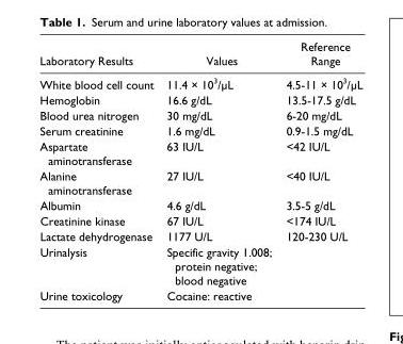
<table><thead><tr><td>Laboratory Results</td><td>Values</td><td>Reference Range</td></tr></thead><tbody><tr><td>White blood cell count</td><td>11.4 × 10<sup>3</sup>/µL</td><td>4.5-11 × 10<sup>3</sup>/µL</td></tr><tr><td>Hemoglobin</td><td>16.6 g/dL</td><td>13.5-17.5 g/dL</td></tr><tr><td>Blood urea nitrogen</td><td>30 mg/dL</td><td>6-20 mg/dL</td></tr><tr><td>Serum creatinine</td><td>1.6 mg/dL</td><td>0.9-1.5 mg/dL</td></tr><tr><td>Aspartate aminotransferase</td><td>63 IU/L</td><td>&lt;42 IU/L</td></tr><tr><td>Alanine aminotransferase</td><td>27 IU/L</td><td>&lt;40 IU/L</td></tr><tr><td>Albumin</td><td>4.6 g/dL</td><td>3.5-5 g/dL</td></tr><tr><td>Creatinine kinase</td><td>67 IU/L</td><td>&lt;174 IU/L</td></tr><tr><td>Lactate dehydrogenase</td><td>1177 U/L</td><td>120-230 U/L</td></tr><tr><td>Urinalysis</td><td>Specific gravity 1.008; protein negative; blood negative</td><td></td></tr><tr><td>Urine toxicology</td><td>Cocaine: reactive</td><td></td></tr></tbody></table>